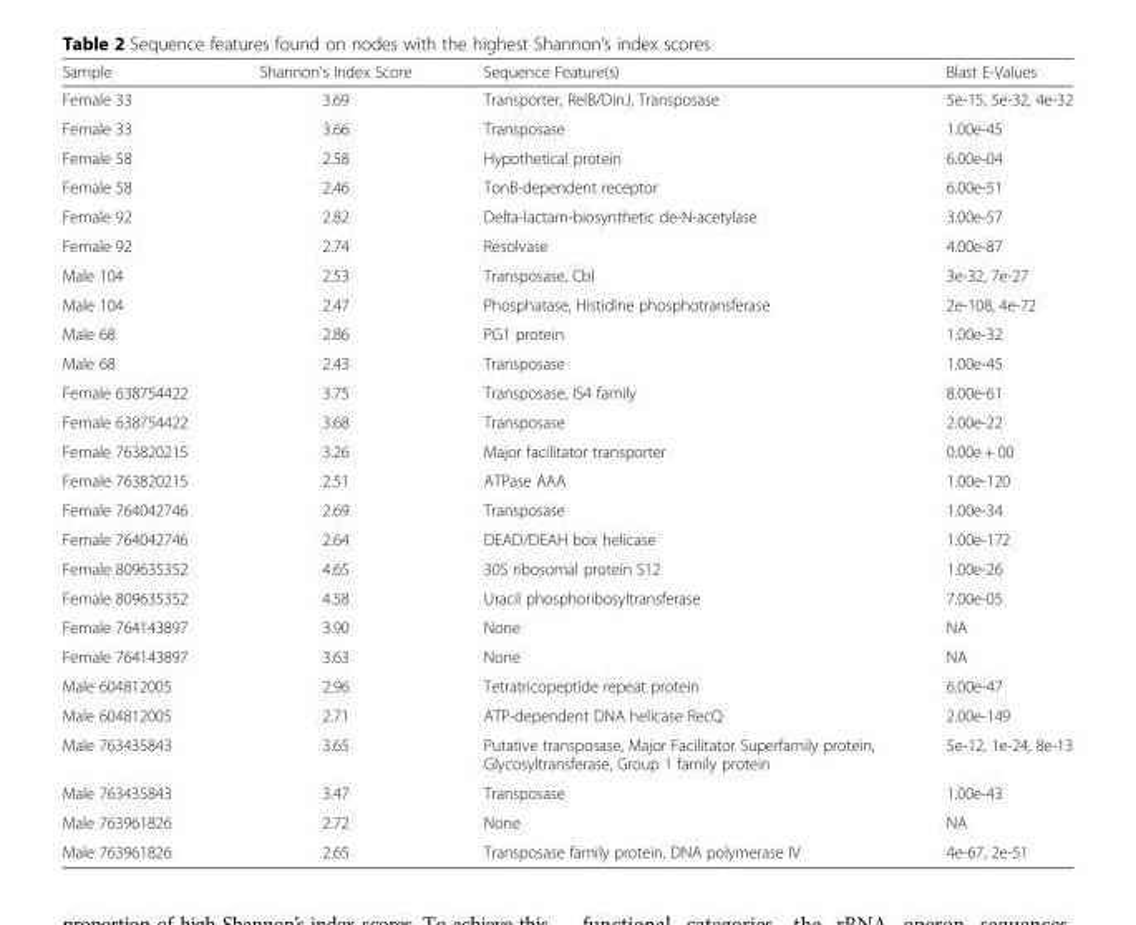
<table><thead><tr><td>Sample</td><td>Shannon&#x27;s Index Score</td><td>Sequence Feature(s)</td><td>Blast E-Values</td></tr></thead><tbody><tr><td>Female 33</td><td>3.69</td><td>Transporter, RelB/DinJ, Transposase</td><td>5e-15, 5e-32, 4e-32</td></tr><tr><td>Female 33</td><td>3.66</td><td>Transposase</td><td>1.00e-45</td></tr><tr><td>Female 58</td><td>2.58</td><td>Hypothetical protein</td><td>6.00e-04</td></tr><tr><td>Female 58</td><td>2.46</td><td>TonB-dependent receptor</td><td>6.00e-51</td></tr><tr><td>Female 92</td><td>2.82</td><td>Delta-lactam-biosynthetic de-N-acetylase</td><td>3.00e-57</td></tr><tr><td>Female 92</td><td>2.74</td><td>Resolvase</td><td>4.00e-87</td></tr><tr><td>Male 104</td><td>2.53</td><td>Transposase, Cbl</td><td>3e-32, 7e-27</td></tr><tr><td>Male 104</td><td>2.47</td><td>Phosphatase, Histidine phosphotransferase</td><td>2e-108, 4e-72</td></tr><tr><td>Male 68</td><td>2.86</td><td>PG1 protein</td><td>1.00e-32</td></tr><tr><td>Male 68</td><td>2.43</td><td>Transposase</td><td>1.00e-45</td></tr><tr><td>Female 638754422</td><td>3.75</td><td>Transposase, IS4 family</td><td>8.00e-61</td></tr><tr><td>Female 638754422</td><td>3.68</td><td>Transposase</td><td>2.00e-22</td></tr><tr><td>Female 763820215</td><td>3.26</td><td>Major facilitator transporter</td><td>0.00e + 00</td></tr><tr><td>Female 763820215</td><td>2.51</td><td>ATPase AAA</td><td>1.00e-120</td></tr><tr><td>Female 764042746</td><td>2.69</td><td>Transposase</td><td>1.00e-34</td></tr><tr><td>Female 764042746</td><td>2.64</td><td>DEAD/DEAH box helicase</td><td>1.00e-172</td></tr><tr><td>Female 809635352</td><td>4.65</td><td>30S ribosomal protein S12</td><td>1.00e-26</td></tr><tr><td>Female 809635352</td><td>4.58</td><td>Uracil phosphoribosyltransferase</td><td>7.00e-05</td></tr><tr><td>Female 764143897</td><td>3.90</td><td>None</td><td>NA</td></tr><tr><td>Female 764143897</td><td>3.63</td><td>None</td><td>NA</td></tr><tr><td>Male 604812005</td><td>2.96</td><td>Tetratricopeptide repeat protein</td><td>6.00e-47</td></tr><tr><td>Male 604812005</td><td>2.71</td><td>ATP-dependent DNA helicase RecQ</td><td>2.00e-149</td></tr><tr><td>Male 763435843</td><td>3.65</td><td>Putative transposase, Major Facilitator Superfamily protein, Glycosyltransferase, Group 1 family protein</td><td>5e-12, 1e-24, 8e-13</td></tr><tr><td>Male 763435843</td><td>3.47</td><td>Transposase</td><td>1.00e-43</td></tr><tr><td>Male 763961826</td><td>2.72</td><td>None</td><td>NA</td></tr><tr><td>Male 763961826</td><td>2.65</td><td>Transposase family protein, DNA polymerase IV</td><td>4e-67, 2e-51</td></tr></tbody></table>